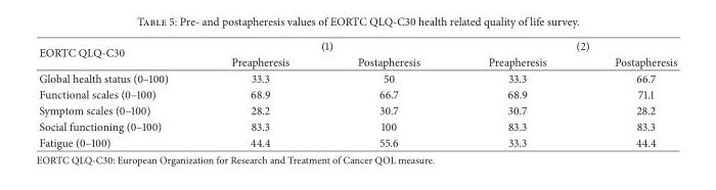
<table><thead><tr><td rowspan="2">EORTC QLQ-C30</td><td colspan="2">(1)</td><td colspan="2">(2)</td></tr><tr><td>Preapheresis</td><td>Postapheresis</td><td>Preapheresis</td><td>Postapheresis</td></tr></thead><tbody><tr><td>Global health status (0–100)</td><td>33.3</td><td>50</td><td>33.3</td><td>66.7</td></tr><tr><td>Functional scales (0–100)</td><td>68.9</td><td>66.7</td><td>68.9</td><td>71.1</td></tr><tr><td>Symptom scales (0–100)</td><td>28.2</td><td>30.7</td><td>30.7</td><td>28.2</td></tr><tr><td>Social functioning (0–100)</td><td>83.3</td><td>100</td><td>83.3</td><td>83.3</td></tr><tr><td>Fatigue (0–100)</td><td>44.4</td><td>55.6</td><td>33.3</td><td>44.4</td></tr></tbody></table>